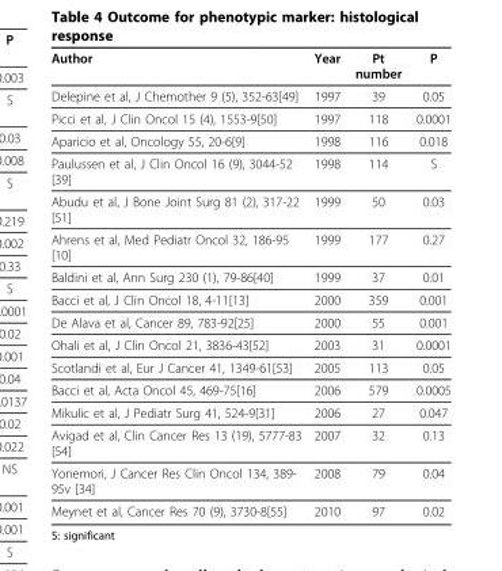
<table><thead><tr><td>Author</td><td>Year</td><td>Pt number</td><td>P</td></tr></thead><tbody><tr><td>Delepine et al, J Chemother 9 (5), 352-63[49]</td><td>1997</td><td>39</td><td>0.05</td></tr><tr><td>Picci et al, J Clin Oncol 15 (4), 1553-9[50]</td><td>1997</td><td>118</td><td>0.0001</td></tr><tr><td>Aparicio et al, Oncology 55, 20-6[9]</td><td>1998</td><td>116</td><td>0.018</td></tr><tr><td>Paulussen et al, J Clin Oncol 16 (9), 3044-52 [39]</td><td>1998</td><td>114</td><td>S</td></tr><tr><td>Abudu et al, J Bone Joint Surg 81 (2), 317-22 [51]</td><td>1999</td><td>50</td><td>0.03</td></tr><tr><td>Ahrens et al, Med Pediatr Oncol 32, 186-95 [10]</td><td>1999</td><td>177</td><td>0.27</td></tr><tr><td>Baldini et al, Ann Surg 230 (1), 79-86[40]</td><td>1999</td><td>37</td><td>0.01</td></tr><tr><td>Bacci et al, J Clin Oncol 18, 4-11[13]</td><td>2000</td><td>359</td><td>0.001</td></tr><tr><td>De Alava et al, Cancer 89, 783-92[25]</td><td>2000</td><td>55</td><td>0.001</td></tr><tr><td>Ohali et al, J Clin Oncol 21, 3836-43[52]</td><td>2003</td><td>31</td><td>0.0001</td></tr><tr><td>Scotlandi et al, Eur J Cancer 41, 1349-61[53]</td><td>2005</td><td>113</td><td>0.05</td></tr><tr><td>Bacci et al, Acta Oncol 45, 469-75[16]</td><td>2006</td><td>579</td><td>0.0005</td></tr><tr><td>Mikulic et al, J Pediatr Surg 41, 524-9[31]</td><td>2006</td><td>27</td><td>0.047</td></tr><tr><td>Avigad et al, Clin Cancer Res 13 (19), 5777-83 [54]</td><td>2007</td><td>32</td><td>0.13</td></tr><tr><td>Yonemori, J Cancer Res Clin Oncol 134, 389- 95v [34]</td><td>2008</td><td>79</td><td>0.04</td></tr><tr><td>Meynet et al, Cancer Res 70 (9), 3730-8[55]</td><td>2010</td><td>97</td><td>0.02</td></tr></tbody></table>